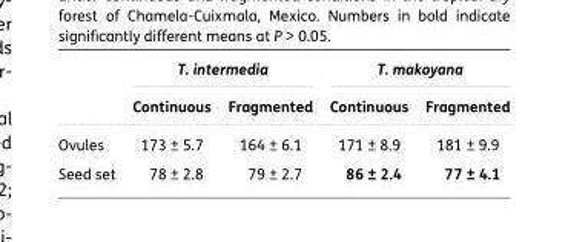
<table><thead><tr><td rowspan="2"></td><td colspan="2">T. intermedia</td><td colspan="2">T. makoyana</td></tr><tr><td>Continuous</td><td>Fragmented</td><td>Continuous</td><td>Fragmented</td></tr></thead><tbody><tr><td>Ovules</td><td>173 ± 5.7</td><td>164 ± 6.1</td><td>171 ± 8.9</td><td>181 ± 9.9</td></tr><tr><td>Seed set</td><td>78 ± 2.8</td><td>79 ± 2.7</td><td>86 ± 2.4</td><td>77 ± 4.1</td></tr></tbody></table>